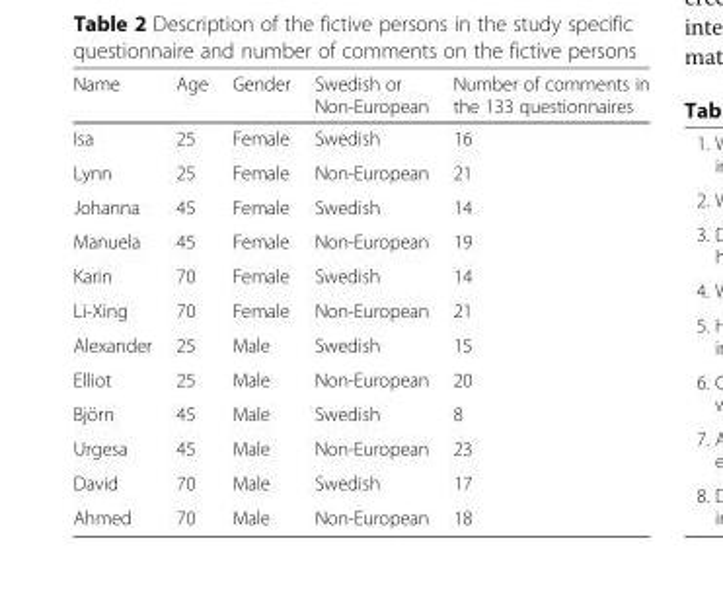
<table><thead><tr><td>Name</td><td>Age</td><td>Gender</td><td>Swedish or Non-European</td><td>Number of comments in the 133 questionnaires</td></tr></thead><tbody><tr><td>Isa</td><td>25</td><td>Female</td><td>Swedish</td><td>16</td></tr><tr><td>Lynn</td><td>25</td><td>Female</td><td>Non-European</td><td>21</td></tr><tr><td>Johanna</td><td>45</td><td>Female</td><td>Swedish</td><td>14</td></tr><tr><td>Manuela</td><td>45</td><td>Female</td><td>Non-European</td><td>19</td></tr><tr><td>Karin</td><td>70</td><td>Female</td><td>Swedish</td><td>14</td></tr><tr><td>Li-Xing</td><td>70</td><td>Female</td><td>Non-European</td><td>21</td></tr><tr><td>Alexander</td><td>25</td><td>Male</td><td>Swedish</td><td>15</td></tr><tr><td>Elliot</td><td>25</td><td>Male</td><td>Non-European</td><td>20</td></tr><tr><td>Björn</td><td>45</td><td>Male</td><td>Swedish</td><td>8</td></tr><tr><td>Urgesa</td><td>45</td><td>Male</td><td>Non-European</td><td>23</td></tr><tr><td>David</td><td>70</td><td>Male</td><td>Swedish</td><td>17</td></tr><tr><td>Ahmed</td><td>70</td><td>Male</td><td>Non-European</td><td>18</td></tr></tbody></table>